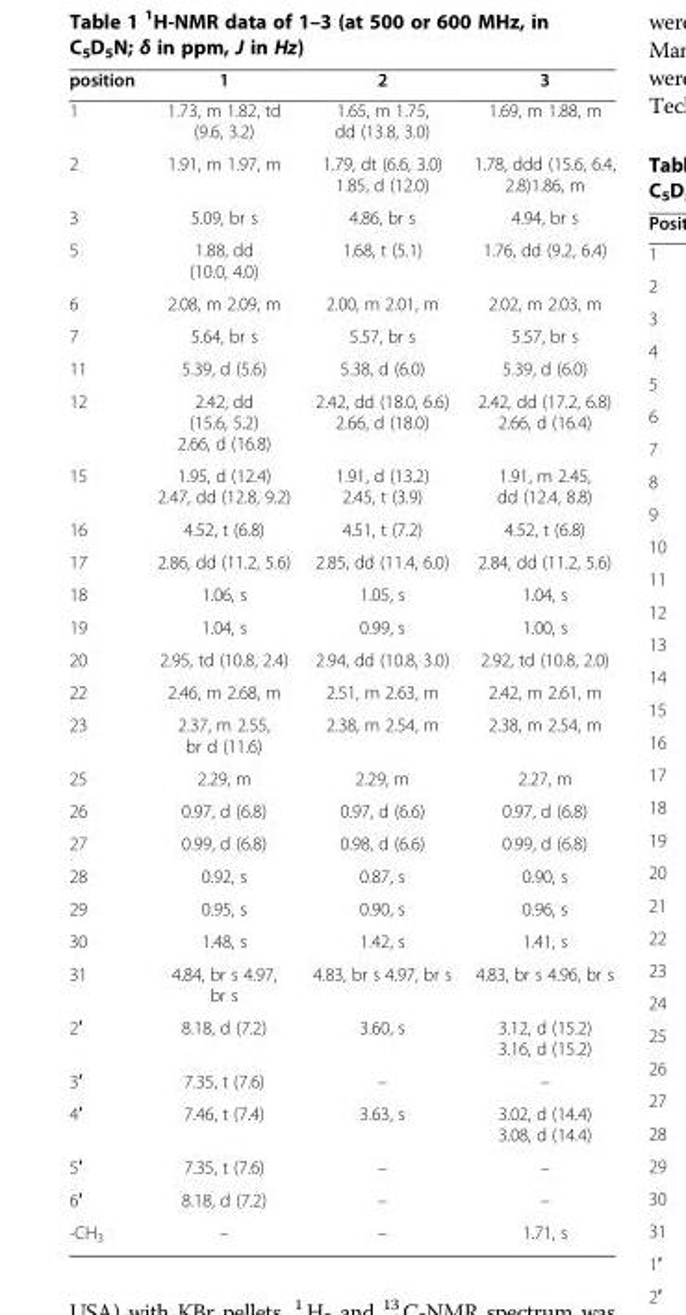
<table><thead><tr><td>position</td><td>1</td><td>2</td><td>3</td></tr></thead><tbody><tr><td>1</td><td>1.73, m 1.82, td (9.6, 3.2)</td><td>1.65, m 1.75, dd (13.8, 3.0)</td><td>1.69, m 1.88, m</td></tr><tr><td>2</td><td>1.91, m 1.97, m</td><td>1.79, dt (6.6, 3.0) 1.85, d (12.0)</td><td>1.78, ddd (15.6, 6.4, 2.8)1.86, m</td></tr><tr><td>3</td><td>5.09, br s</td><td>4.86, br s</td><td>4.94, br s</td></tr><tr><td>5</td><td>1.88, dd (10.0, 4.0)</td><td>1.68, t (5.1)</td><td>1.76, dd (9.2, 6.4)</td></tr><tr><td>6</td><td>2.08, m 2.09, m</td><td>2.00, m 2.01, m</td><td>2.02, m 2.03, m</td></tr><tr><td>7</td><td>5.64, br s</td><td>5.57, br s</td><td>5.57, br s</td></tr><tr><td>11</td><td>5.39, d (5.6)</td><td>5.38, d (6.0)</td><td>5.39, d (6.0)</td></tr><tr><td>12</td><td>2.42, dd (15.6, 5.2) 2.66, d (16.8)</td><td>2.42, dd (18.0, 6.6) 2.66, d (18.0)</td><td>2.42, dd (17.2, 6.8) 2.66, d (16.4)</td></tr><tr><td>15</td><td>1.95, d (12.4) 2.47, dd (12.8, 9.2)</td><td>1.91, d (13.2) 2.45, t (3.9)</td><td>1.91, m 2.45, dd (12.4, 8.8)</td></tr><tr><td>16</td><td>4.52, t (6.8)</td><td>4.51, t (7.2)</td><td>4.52, t (6.8)</td></tr><tr><td>17</td><td>2.86, dd (11.2, 5.6)</td><td>2.85, dd (11.4, 6.0)</td><td>2.84, dd (11.2, 5.6)</td></tr><tr><td>18</td><td>1.06, s</td><td>1.05, s</td><td>1.04, s</td></tr><tr><td>19</td><td>1.04, s</td><td>0.99, s</td><td>1.00, s</td></tr><tr><td>20</td><td>2.95, td (10.8, 2.4)</td><td>2.94, dd (10.8, 3.0)</td><td>2.92, td (10.8, 2.0)</td></tr><tr><td>22</td><td>2.46, m 2.68, m</td><td>2.51, m 2.63, m</td><td>2.42, m 2.61, m</td></tr><tr><td>23</td><td>2.37, m 2.55, br d (11.6)</td><td>2.38, m 2.54, m</td><td>2.38, m 2.54, m</td></tr><tr><td>25</td><td>2.29, m</td><td>2.29, m</td><td>2.27, m</td></tr><tr><td>26</td><td>0.97, d (6.8)</td><td>0.97, d (6.6)</td><td>0.97, d (6.8)</td></tr><tr><td>27</td><td>0.99, d (6.8)</td><td>0.98, d (6.6)</td><td>0.99, d (6.8)</td></tr><tr><td>28</td><td>0.92, s</td><td>0.87, s</td><td>0.90, s</td></tr><tr><td>29</td><td>0.95, s</td><td>0.90, s</td><td>0.96, s</td></tr><tr><td>30</td><td>1.48, s</td><td>1.42, s</td><td>1.41, s</td></tr><tr><td>31</td><td>4.84, br s 4.97, br s</td><td>4.83, br s 4.97, br s</td><td>4.83, br s 4.96, br s</td></tr><tr><td>2′</td><td>8.18, d (7.2)</td><td>3.60, s</td><td>3.12, d (15.2) 3.16, d (15.2)</td></tr><tr><td>3′</td><td>7.35, t (7.6)</td><td>–</td><td>–</td></tr><tr><td>4′</td><td>7.46, t (7.4)</td><td>3.63, s</td><td>3.02, d (14.4) 3.08, d (14.4)</td></tr><tr><td>5′</td><td>7.35, t (7.6)</td><td>–</td><td>–</td></tr><tr><td>6′</td><td>8.18, d (7.2)</td><td>–</td><td>–</td></tr><tr><td>-CH<sub>3</sub></td><td>–</td><td>–</td><td>1.71, s</td></tr></tbody></table>